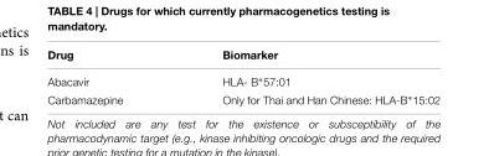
<table><thead><tr><td>Drug</td><td>Biomarker</td></tr></thead><tbody><tr><td>Abacavir</td><td>HLA- B∗57:01</td></tr><tr><td>Carbamazepine</td><td>Only for Thai and Han Chinese: HLA-B∗15:02</td></tr></tbody></table>